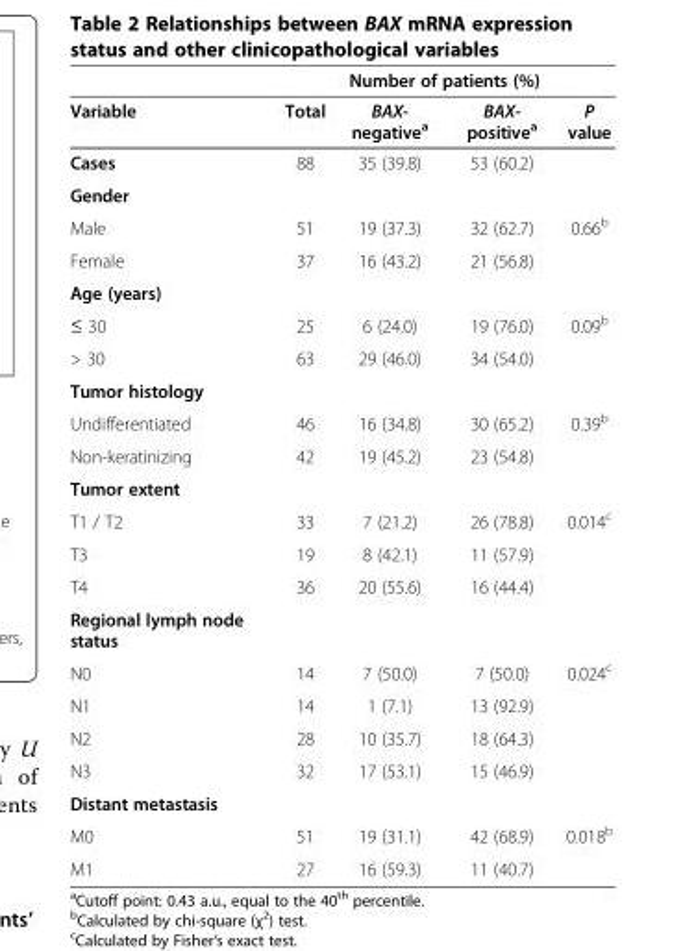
<table><thead><tr><td rowspan="2">Variable</td><td rowspan="2">Total</td><td colspan="2">Number of patients (%)</td><td rowspan="2">P value</td></tr><tr><td>BAX- negative<sup>a</sup></td><td>BAX- positive<sup>a</sup></td></tr></thead><tbody><tr><td>Cases</td><td>88</td><td>35 (39.8)</td><td>53 (60.2)</td><td></td></tr><tr><td colspan="5">Gender</td></tr><tr><td>Male</td><td>51</td><td>19 (37.3)</td><td>32 (62.7)</td><td>0.66<sup>b</sup></td></tr><tr><td>Female</td><td>37</td><td>16 (43.2)</td><td>21 (56.8)</td><td></td></tr><tr><td colspan="5">Age (years)</td></tr><tr><td>≤ 30</td><td>25</td><td>6 (24.0)</td><td>19 (76.0)</td><td>0.09<sup>b</sup></td></tr><tr><td>&gt; 30</td><td>63</td><td>29 (46.0)</td><td>34 (54.0)</td><td></td></tr><tr><td colspan="5">Tumor histology</td></tr><tr><td>Undifferentiated</td><td>46</td><td>16 (34.8)</td><td>30 (65.2)</td><td>0.39<sup>b</sup></td></tr><tr><td>Non-keratinizing</td><td>42</td><td>19 (45.2)</td><td>23 (54.8)</td><td></td></tr><tr><td colspan="5">Tumor extent</td></tr><tr><td>T1 / T2</td><td>33</td><td>7 (21.2)</td><td>26 (78.8)</td><td>0.014<sup>c</sup></td></tr><tr><td>T3</td><td>19</td><td>8 (42.1)</td><td>11 (57.9)</td><td></td></tr><tr><td>T4</td><td>36</td><td>20 (55.6)</td><td>16 (44.4)</td><td></td></tr><tr><td colspan="5">Regional lymph node status</td></tr><tr><td>N0</td><td>14</td><td>7 (50.0)</td><td>7 (50.0)</td><td>0.024<sup>c</sup></td></tr><tr><td>N1</td><td>14</td><td>1 (7.1)</td><td>13 (92.9)</td><td></td></tr><tr><td>N2</td><td>28</td><td>10 (35.7)</td><td>18 (64.3)</td><td></td></tr><tr><td>N3</td><td>32</td><td>17 (53.1)</td><td>15 (46.9)</td><td></td></tr><tr><td colspan="5">Distant metastasis</td></tr><tr><td>M0</td><td>51</td><td>19 (31.1)</td><td>42 (68.9)</td><td>0.018<sup>b</sup></td></tr><tr><td>M1</td><td>27</td><td>16 (59.3)</td><td>11 (40.7)</td><td></td></tr></tbody></table>